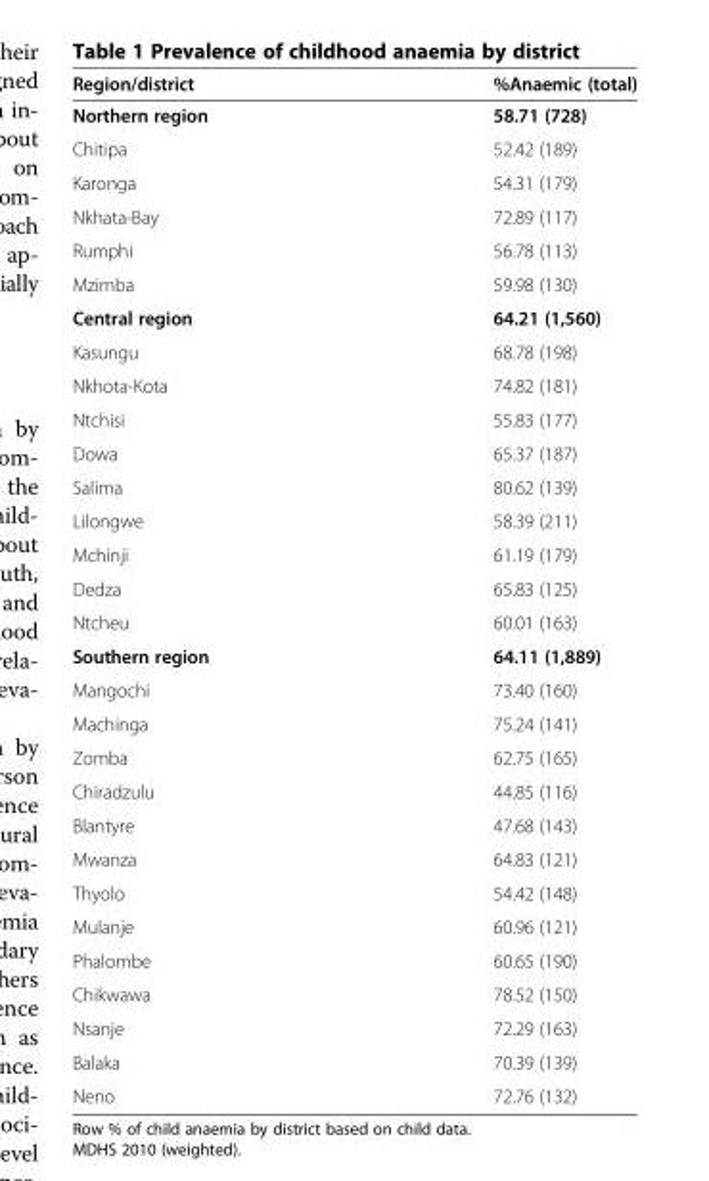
<table><thead><tr><td>Region/district</td><td>%Anaemic (total)</td></tr></thead><tbody><tr><td>Northern region</td><td>58.71 (728)</td></tr><tr><td>Chitipa</td><td>52.42 (189)</td></tr><tr><td>Karonga</td><td>54.31 (179)</td></tr><tr><td>Nkhata-Bay</td><td>72.89 (117)</td></tr><tr><td>Rumphi</td><td>56.78 (113)</td></tr><tr><td>Mzimba</td><td>59.98 (130)</td></tr><tr><td>Central region</td><td>64.21 (1,560)</td></tr><tr><td>Kasungu</td><td>68.78 (198)</td></tr><tr><td>Nkhota-Kota</td><td>74.82 (181)</td></tr><tr><td>Ntchisi</td><td>55.83 (177)</td></tr><tr><td>Dowa</td><td>65.37 (187)</td></tr><tr><td>Salima</td><td>80.62 (139)</td></tr><tr><td>Lilongwe</td><td>58.39 (211)</td></tr><tr><td>Mchinji</td><td>61.19 (179)</td></tr><tr><td>Dedza</td><td>65.83 (125)</td></tr><tr><td>Ntcheu</td><td>60.01 (163)</td></tr><tr><td>Southern region</td><td>64.11 (1,889)</td></tr><tr><td>Mangochi</td><td>73.40 (160)</td></tr><tr><td>Machinga</td><td>75.24 (141)</td></tr><tr><td>Zomba</td><td>62.75 (165)</td></tr><tr><td>Chiradzulu</td><td>44.85 (116)</td></tr><tr><td>Blantyre</td><td>47.68 (143)</td></tr><tr><td>Mwanza</td><td>64.83 (121)</td></tr><tr><td>Thyolo</td><td>54.42 (148)</td></tr><tr><td>Mulanje</td><td>60.96 (121)</td></tr><tr><td>Phalombe</td><td>60.65 (190)</td></tr><tr><td>Chikwawa</td><td>78.52 (150)</td></tr><tr><td>Nsanje</td><td>72.29 (163)</td></tr><tr><td>Balaka</td><td>70.39 (139)</td></tr><tr><td>Neno</td><td>72.76 (132)</td></tr></tbody></table>